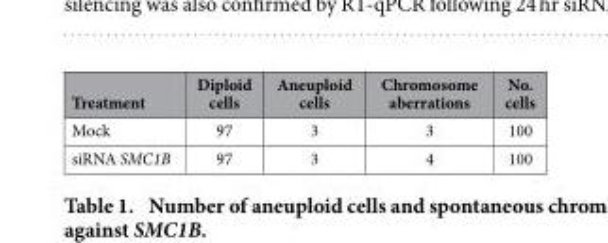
<table><thead><tr><td>Treatment</td><td>Diploid cells</td><td>Aneuploid cells</td><td>Chromosome aberrations</td><td>No. cells</td></tr></thead><tbody><tr><td>Mock</td><td>97</td><td>3</td><td>3</td><td>100</td></tr><tr><td>siRNA SMC1B</td><td>97</td><td>3</td><td>4</td><td>100</td></tr></tbody></table>